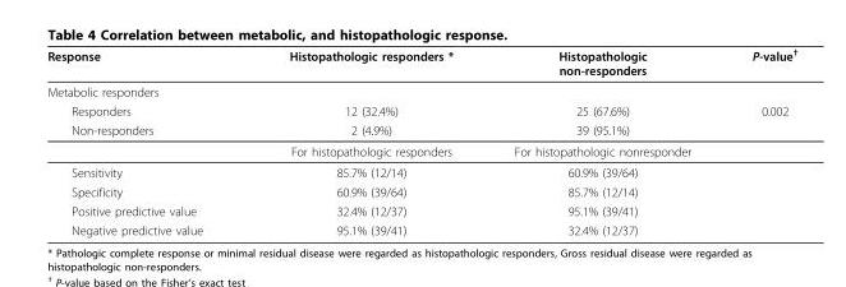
<table><thead><tr><td>Response</td><td>Histopathologic responders *</td><td>Histopathologic non-responders</td><td>P-value<sup>†</sup></td></tr></thead><tbody><tr><td colspan="4">Metabolic responders</td></tr><tr><td>Responders</td><td>12 (32.4%)</td><td>25 (67.6%)</td><td>0.002</td></tr><tr><td rowspan="2">Non-responders</td><td>2 (4.9%)</td><td>39 (95.1%)</td><td></td></tr><tr><td>For histopathologic responders</td><td>For histopathologic nonresponder</td><td></td></tr><tr><td>Sensitivity</td><td>85.7% (12/14)</td><td>60.9% (39/64)</td><td></td></tr><tr><td>Specificity</td><td>60.9% (39/64)</td><td>85.7% (12/14)</td><td></td></tr><tr><td>Positive predictive value</td><td>32.4% (12/37)</td><td>95.1% (39/41)</td><td></td></tr><tr><td>Negative predictive value</td><td>95.1% (39/41)</td><td>32.4% (12/37)</td><td></td></tr></tbody></table>